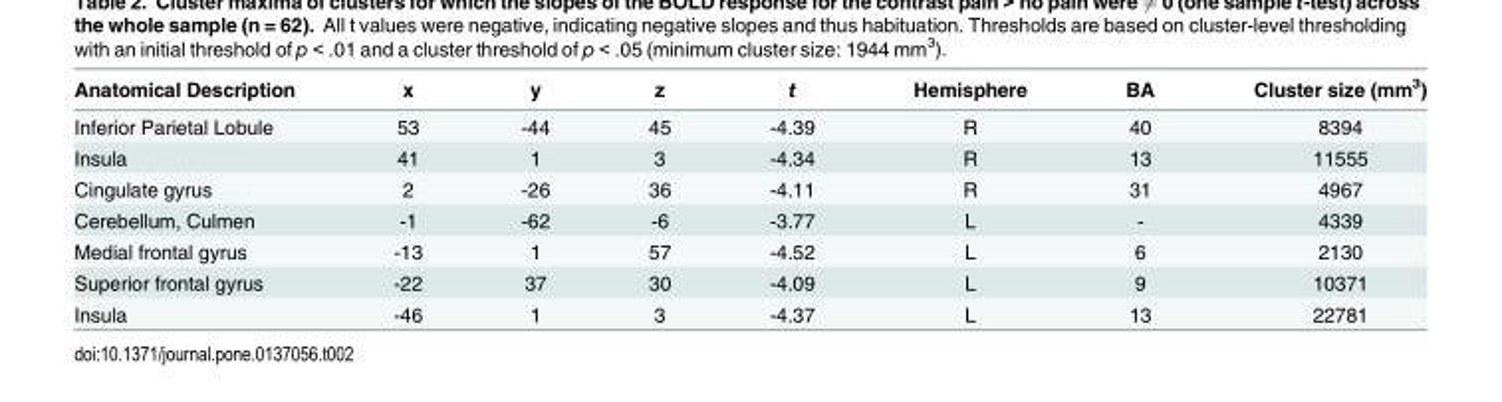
<table><thead><tr><td>Anatomical Description</td><td>x</td><td>y</td><td>z</td><td>t</td><td>Hemisphere</td><td>BA</td><td>Cluster size (mm<sup>3</sup>)</td></tr></thead><tbody><tr><td>Inferior Parietal Lobule</td><td>53</td><td>-44</td><td>45</td><td>-4.39</td><td>R</td><td>40</td><td>8394</td></tr><tr><td>Insula</td><td>41</td><td>1</td><td>3</td><td>-4.34</td><td>R</td><td>13</td><td>11555</td></tr><tr><td>Cingulate gyrus</td><td>2</td><td>-26</td><td>36</td><td>-4.11</td><td>R</td><td>31</td><td>4967</td></tr><tr><td>Cerebellum, Culmen</td><td>-1</td><td>-62</td><td>-6</td><td>-3.77</td><td>L</td><td>-</td><td>4339</td></tr><tr><td>Medial frontal gyrus</td><td>-13</td><td>1</td><td>57</td><td>-4.52</td><td>L</td><td>6</td><td>2130</td></tr><tr><td>Superior frontal gyrus</td><td>-22</td><td>37</td><td>30</td><td>-4.09</td><td>L</td><td>9</td><td>10371</td></tr><tr><td>Insula</td><td>-46</td><td>1</td><td>3</td><td>-4.37</td><td>L</td><td>13</td><td>22781</td></tr></tbody></table>